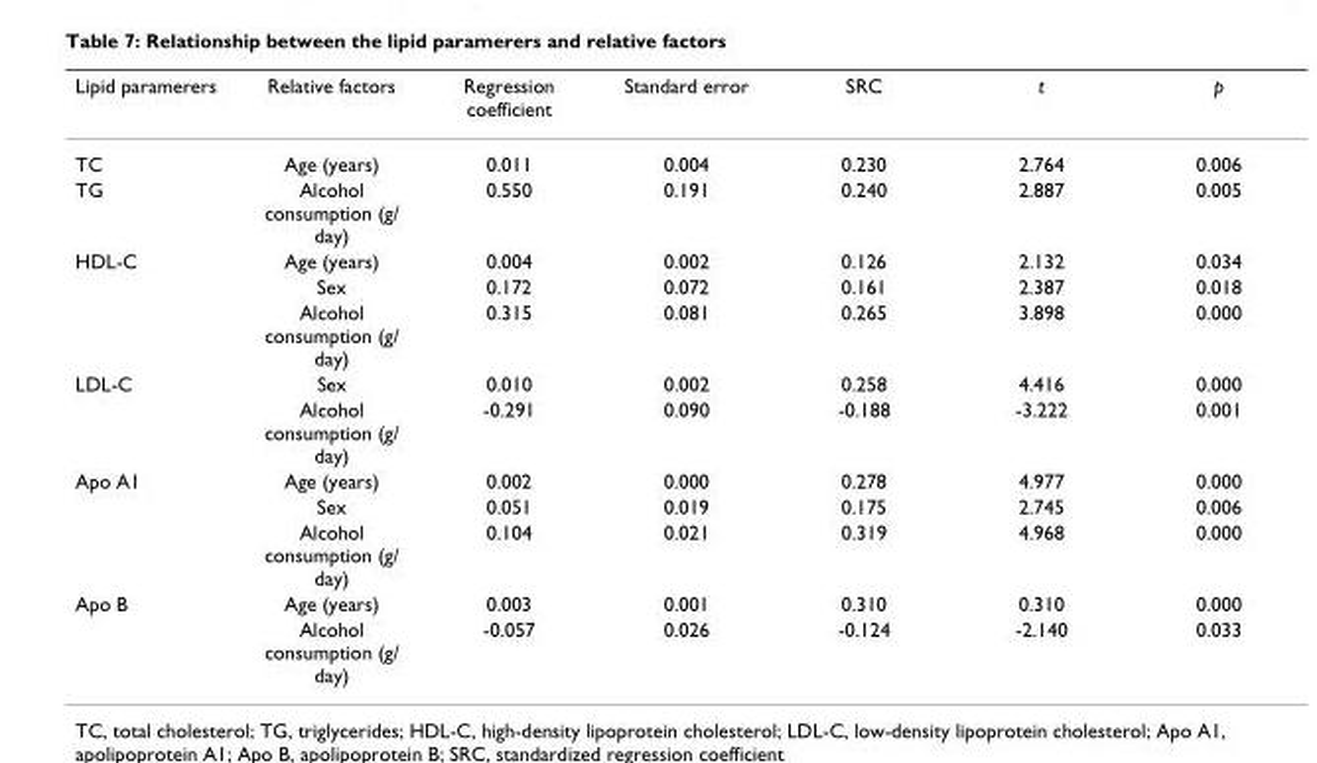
<table><thead><tr><td>Lipid paramerers</td><td>Relative factors</td><td>Regression coefficient</td><td>Standard error</td><td>SRC</td><td>t</td><td>p</td></tr></thead><tbody><tr><td>TC</td><td>Age (years)</td><td>0.011</td><td>0.004</td><td>0.230</td><td>2.764</td><td>0.006</td></tr><tr><td>TG</td><td>Alcohol consumption (g/ day)</td><td>0.550</td><td>0.191</td><td>0.240</td><td>2.887</td><td>0.005</td></tr><tr><td rowspan="3">HDL-C</td><td>Age (years)</td><td>0.004</td><td>0.002</td><td>0.126</td><td>2.132</td><td>0.034</td></tr><tr><td>Sex</td><td>0.172</td><td>0.072</td><td>0.161</td><td>2.387</td><td>0.018</td></tr><tr><td>Alcohol consumption (g/ day)</td><td>0.315</td><td>0.081</td><td>0.265</td><td>3.898</td><td>0.000</td></tr><tr><td rowspan="2">LDL-C</td><td>Sex</td><td>0.010</td><td>0.002</td><td>0.258</td><td>4.416</td><td>0.000</td></tr><tr><td>Alcohol consumption (g/ day)</td><td>-0.291</td><td>0.090</td><td>-0.188</td><td>-3.222</td><td>0.001</td></tr><tr><td rowspan="3">Apo A1</td><td>Age (years)</td><td>0.002</td><td>0.000</td><td>0.278</td><td>4.977</td><td>0.000</td></tr><tr><td>Sex</td><td>0.051</td><td>0.019</td><td>0.175</td><td>2.745</td><td>0.006</td></tr><tr><td>Alcohol consumption (g/ day)</td><td>0.104</td><td>0.021</td><td>0.319</td><td>4.968</td><td>0.000</td></tr><tr><td rowspan="2">Apo B</td><td>Age (years)</td><td>0.003</td><td>0.001</td><td>0.310</td><td>0.310</td><td>0.000</td></tr><tr><td>Alcohol consumption (g/ day)</td><td>-0.057</td><td>0.026</td><td>-0.124</td><td>-2.140</td><td>0.033</td></tr></tbody></table>